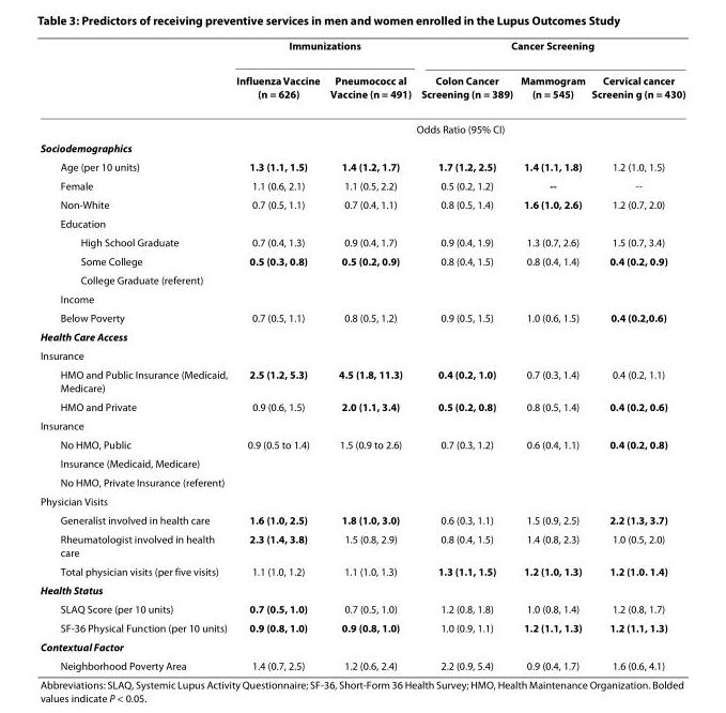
<table><thead><tr><td rowspan="2"></td><td colspan="2">Immunizations</td><td colspan="3">Cancer Screening</td></tr><tr><td>Influenza Vaccine (n = 626)</td><td>Pneumococc al Vaccine (n = 491)</td><td>Colon Cancer Screening (n = 389)</td><td>Mammogram (n = 545)</td><td>Cervical cancer Screenin g (n = 430)</td></tr></thead><tbody><tr><td></td><td colspan="5">Odds Ratio (95% CI)</td></tr><tr><td colspan="6">Sociodemographics</td></tr><tr><td>Age (per 10 units)</td><td>1.3 (1.1, 1.5)</td><td>1.4 (1.2, 1.7)</td><td>1.7 (1.2, 2.5)</td><td>1.4 (1.1, 1.8)</td><td>1.2 (1.0, 1.5)</td></tr><tr><td>Female</td><td>1.1 (0.6, 2.1)</td><td>1.1 (0.5, 2.2)</td><td>0.5 (0.2, 1.2)</td><td>--</td><td>--</td></tr><tr><td>Non-White</td><td>0.7 (0.5, 1.1)</td><td>0.7 (0.4, 1.1)</td><td>0.8 (0.5, 1.4)</td><td>1.6 (1.0, 2.6)</td><td>1.2 (0.7, 2.0)</td></tr><tr><td colspan="6">Education</td></tr><tr><td>High School Graduate</td><td>0.7 (0.4, 1.3)</td><td>0.9 (0.4, 1.7)</td><td>0.9 (0.4, 1.9)</td><td>1.3 (0.7, 2.6)</td><td>1.5 (0.7, 3.4)</td></tr><tr><td>Some College</td><td>0.5 (0.3, 0.8)</td><td>0.5 (0.2, 0.9)</td><td>0.8 (0.4, 1.5)</td><td>0.8 (0.4, 1.4)</td><td>0.4 (0.2, 0.9)</td></tr><tr><td colspan="6">College Graduate (referent)</td></tr><tr><td colspan="6">Income</td></tr><tr><td>Below Poverty</td><td>0.7 (0.5, 1.1)</td><td>0.8 (0.5, 1.2)</td><td>0.9 (0.5, 1.5)</td><td>1.0 (0.6, 1.5)</td><td>0.4 (0.2,0.6)</td></tr><tr><td colspan="6">Health Care Access</td></tr><tr><td colspan="6">Insurance</td></tr><tr><td>HMO and Public Insurance (Medicaid, Medicare)</td><td>2.5 (1.2, 5.3)</td><td>4.5 (1.8, 11.3)</td><td>0.4 (0.2, 1.0)</td><td>0.7 (0.3, 1.4)</td><td>0.4 (0.2, 1.1)</td></tr><tr><td>HMO and Private</td><td>0.9 (0.6, 1.5)</td><td>2.0 (1.1, 3.4)</td><td>0.5 (0.2, 0.8)</td><td>0.8 (0.5, 1.4)</td><td>0.4 (0.2, 0.6)</td></tr><tr><td colspan="6">Insurance</td></tr><tr><td>No HMO, Public</td><td>0.9 (0.5 to 1.4)</td><td>1.5 (0.9 to 2.6)</td><td>0.7 (0.3, 1.2)</td><td>0.6 (0.4, 1.1)</td><td>0.4 (0.2, 0.8)</td></tr><tr><td colspan="6">Insurance (Medicaid, Medicare)</td></tr><tr><td colspan="6">No HMO, Private Insurance (referent)</td></tr><tr><td colspan="6">Physician Visits</td></tr><tr><td>Generalist involved in health care</td><td>1.6 (1.0, 2.5)</td><td>1.8 (1.0, 3.0)</td><td>0.6 (0.3, 1.1)</td><td>1.5 (0.9, 2.5)</td><td>2.2 (1.3, 3.7)</td></tr><tr><td>Rheumatologist involved in health care</td><td>2.3 (1.4, 3.8)</td><td>1.5 (0.8, 2.9)</td><td>0.8 (0.4, 1.5)</td><td>1.4 (0.8, 2.3)</td><td>1.0 (0.5, 2.0)</td></tr><tr><td>Total physician visits (per five visits)</td><td>1.1 (1.0, 1.2)</td><td>1.1 (1.0, 1.3)</td><td>1.3 (1.1, 1.5)</td><td>1.2 (1.0, 1.3)</td><td>1.2 (1.0. 1.4)</td></tr><tr><td colspan="6">Health Status</td></tr><tr><td>SLAQ Score (per 10 units)</td><td>0.7 (0.5, 1.0)</td><td>0.7 (0.5, 1.0)</td><td>1.2 (0.8, 1.8)</td><td>1.0 (0.8, 1.4)</td><td>1.2 (0.8, 1.7)</td></tr><tr><td>SF-36 Physical Function (per 10 units)</td><td>0.9 (0.8, 1.0)</td><td>0.9 (0.8, 1.0)</td><td>1.0 (0.9, 1.1)</td><td>1.2 (1.1, 1.3)</td><td>1.2 (1.1, 1.3)</td></tr><tr><td colspan="6">Contextual Factor</td></tr><tr><td>Neighborhood Poverty Area</td><td>1.4 (0.7, 2.5)</td><td>1.2 (0.6, 2.4)</td><td>2.2 (0.9, 5.4)</td><td>0.9 (0.4, 1.7)</td><td>1.6 (0.6, 4.1)</td></tr></tbody></table>